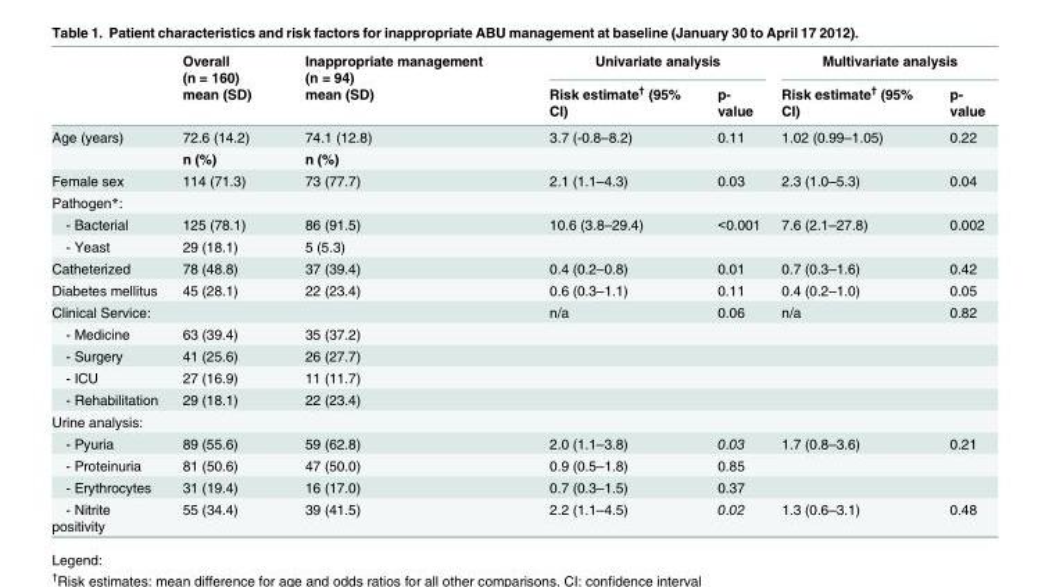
<table><thead><tr><td rowspan="2"></td><td rowspan="2">Overall (n = 160) mean (SD)</td><td rowspan="2">Inappropriate management (n = 94) mean (SD)</td><td colspan="2">Univariate analysis</td><td colspan="2">Multivariate analysis</td></tr><tr><td>Risk estimate<sup>†</sup> (95% CI)</td><td>p- value</td><td>Risk estimate<sup>†</sup> (95% CI)</td><td>p- value</td></tr></thead><tbody><tr><td rowspan="2">Age (years)</td><td>72.6 (14.2)</td><td>74.1 (12.8)</td><td>3.7 (-0.8–8.2)</td><td>0.11</td><td>1.02 (0.99–1.05)</td><td>0.22</td></tr><tr><td>n (%)</td><td>n (%)</td><td></td><td></td><td></td><td></td></tr><tr><td>Female sex</td><td>114 (71.3)</td><td>73 (77.7)</td><td>2.1 (1.1–4.3)</td><td>0.03</td><td>2.3 (1.0–5.3)</td><td>0.04</td></tr><tr><td colspan="7">Pathogen*:</td></tr><tr><td>- Bacterial</td><td>125 (78.1)</td><td>86 (91.5)</td><td>10.6 (3.8–29.4)</td><td>&lt;0.001</td><td>7.6 (2.1–27.8)</td><td>0.002</td></tr><tr><td>- Yeast</td><td>29 (18.1)</td><td>5 (5.3)</td><td></td><td></td><td></td><td></td></tr><tr><td>Catheterized</td><td>78 (48.8)</td><td>37 (39.4)</td><td>0.4 (0.2–0.8)</td><td>0.01</td><td>0.7 (0.3–1.6)</td><td>0.42</td></tr><tr><td>Diabetes mellitus</td><td>45 (28.1)</td><td>22 (23.4)</td><td>0.6 (0.3–1.1)</td><td>0.11</td><td>0.4 (0.2–1.0)</td><td>0.05</td></tr><tr><td>Clinical Service:</td><td></td><td></td><td>n/a</td><td>0.06</td><td>n/a</td><td>0.82</td></tr><tr><td>- Medicine</td><td>63 (39.4)</td><td>35 (37.2)</td><td></td><td></td><td></td><td></td></tr><tr><td>- Surgery</td><td>41 (25.6)</td><td>26 (27.7)</td><td></td><td></td><td></td><td></td></tr><tr><td>- ICU</td><td>27 (16.9)</td><td>11 (11.7)</td><td></td><td></td><td></td><td></td></tr><tr><td>- Rehabilitation</td><td>29 (18.1)</td><td>22 (23.4)</td><td></td><td></td><td></td><td></td></tr><tr><td colspan="7">Urine analysis:</td></tr><tr><td>- Pyuria</td><td>89 (55.6)</td><td>59 (62.8)</td><td>2.0 (1.1–3.8)</td><td>0.03</td><td>1.7 (0.8–3.6)</td><td>0.21</td></tr><tr><td>- Proteinuria</td><td>81 (50.6)</td><td>47 (50.0)</td><td>0.9 (0.5–1.8)</td><td>0.85</td><td></td><td></td></tr><tr><td>- Erythrocytes</td><td>31 (19.4)</td><td>16 (17.0)</td><td>0.7 (0.3–1.5)</td><td>0.37</td><td></td><td></td></tr><tr><td>- Nitrite positivity</td><td>55 (34.4)</td><td>39 (41.5)</td><td>2.2 (1.1–4.5)</td><td>0.02</td><td>1.3 (0.6–3.1)</td><td>0.48</td></tr></tbody></table>